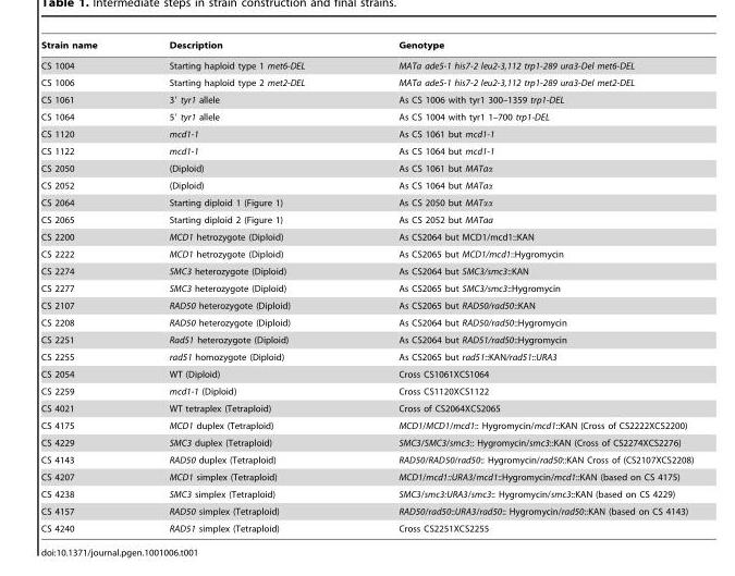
<table><thead><tr><td>Strain name</td><td>Description</td><td>Genotype</td></tr></thead><tbody><tr><td>CS 1004</td><td>Starting haploid type 1 met6-DEL</td><td>MATa ade5-1 his7-2 leu2-3,112 trp1-289 ura3-Del met6-DEL</td></tr><tr><td>CS 1006</td><td>Starting haploid type 2 met2-DEL</td><td>MATa ade5-1 his7-2 leu2-3,112 trp1-289 ura3-Del met2-DEL</td></tr><tr><td>CS 1061</td><td>3′ tyr1 allele</td><td>As CS 1006 with tyr1 300–1359 trp1-DEL</td></tr><tr><td>CS 1064</td><td>5′ tyr1 allele</td><td>As CS 1004 with tyr1 1–700 trp1-DEL</td></tr><tr><td>CS 1120</td><td>mcd1-1</td><td>As CS 1061 but mcd1-1</td></tr><tr><td>CS 1122</td><td>mcd1-1</td><td>As CS 1064 but mcd1-1</td></tr><tr><td>CS 2050</td><td>(Diploid)</td><td>As CS 1061 but MATaα</td></tr><tr><td>CS 2052</td><td>(Diploid)</td><td>As CS 1064 but MATaα</td></tr><tr><td>CS 2064</td><td>Starting diploid 1 (Figure 1)</td><td>As CS 2050 but MATαα</td></tr><tr><td>CS 2065</td><td>Starting diploid 2 (Figure 1)</td><td>As CS 2052 but MATaa</td></tr><tr><td>CS 2200</td><td>MCD1 hetrozygote (Diploid)</td><td>As CS2064 but MCD1/mcd1::KAN</td></tr><tr><td>CS 2222</td><td>MCD1 hetrozygote (Diploid)</td><td>As CS2065 but MCD1/mcd1::Hygromycin</td></tr><tr><td>CS 2274</td><td>SMC3 heterozygote (Diploid)</td><td>As CS2064 but SMC3/smc3::KAN</td></tr><tr><td>CS 2277</td><td>SMC3 heterozygote (Diploid)</td><td>As CS2065 but SMC3/smc3::Hygromycin</td></tr><tr><td>CS 2107</td><td>RAD50 heterozygote (Diploid)</td><td>As CS2065 but RAD50/rad50::KAN</td></tr><tr><td>CS 2208</td><td>RAD50 heterozygote (Diploid)</td><td>As CS2064 but RAD50/rad50::Hygromycin</td></tr><tr><td>CS 2251</td><td>Rad51 heterozygote (Diploid)</td><td>As CS2064 but RAD51/rad50::Hygromycin</td></tr><tr><td>CS 2255</td><td>rad51 homozygote (Diploid)</td><td>As CS2065 but rad51::KAN/rad51::URA3</td></tr><tr><td>CS 2054</td><td>WT (Diploid)</td><td>Cross CS1061XCS1064</td></tr><tr><td>CS 2259</td><td>mcd1-1 (Diploid)</td><td>Cross CS1120XCS1122</td></tr><tr><td>CS 4021</td><td>WT tetraplex (Tetraploid)</td><td>Cross of CS2064XCS2065</td></tr><tr><td>CS 4175</td><td>MCD1 duplex (Tetraploid)</td><td>MCD1/MCD1/mcd1:: Hygromycin/mcd1::KAN (Cross of CS2222XCS2200)</td></tr><tr><td>CS 4229</td><td>SMC3 duplex (Tetraploid)</td><td>SMC3/SMC3/smc3:: Hygromycin/smc3::KAN (Cross of CS2274XCS2276)</td></tr><tr><td>CS 4143</td><td>RAD50 duplex (Tetraploid)</td><td>RAD50/RAD50/rad50:: Hygromycin/rad50::KAN Cross of (CS2107XCS2208)</td></tr><tr><td>CS 4207</td><td>MCD1 simplex (Tetraploid)</td><td>MCD1/mcd1::URA3/mcd1::Hygromycin/mcd1::KAN (based on CS 4175)</td></tr><tr><td>CS 4238</td><td>SMC3 simplex (Tetraploid)</td><td>SMC3/smc3:URA3/smc3:: Hygromycin/smc3::KAN (based on CS 4229)</td></tr><tr><td>CS 4157</td><td>RAD50 simplex (Tetraploid)</td><td>RAD50/rad50::URA3/rad50:: Hygromycin/rad50::KAN (based on CS 4143)</td></tr><tr><td>CS 4240</td><td>RAD51 simplex (Tetraploid)</td><td>Cross CS2251XCS2255</td></tr></tbody></table>